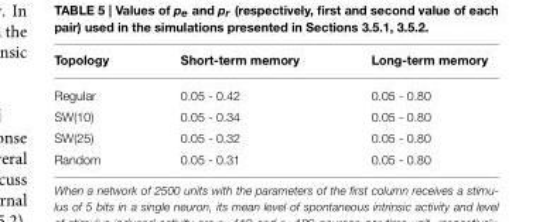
<table><thead><tr><td>Topology</td><td>Short-term memory</td><td>Long-term memory</td></tr></thead><tbody><tr><td>Regular</td><td>0.05 - 0.42</td><td>0.05 - 0.80</td></tr><tr><td>SW(10)</td><td>0.05 - 0.34</td><td>0.05 - 0.80</td></tr><tr><td>SW(25)</td><td>0.05 - 0.32</td><td>0.05 - 0.80</td></tr><tr><td>Random</td><td>0.05 - 0.31</td><td>0.05 - 0.80</td></tr></tbody></table>